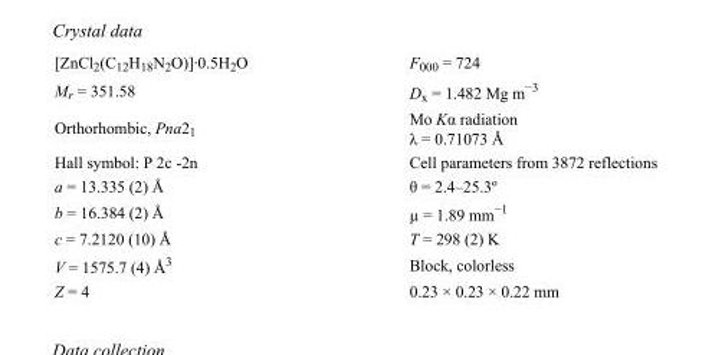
<table><tbody><tr><td>[ZnCl<sub>2</sub>(C<sub>12</sub>H<sub>18</sub>N<sub>2</sub>O)]·0.5H<sub>2</sub>O</td><td>F000 = 724</td></tr><tr><td>M<sub>r</sub> = 351.58</td><td>D<sub>x</sub> = 1.482 Mg m<sup>−3</sup></td></tr><tr><td>Orthorhombic, Pna2<sub>1</sub></td><td>Mo Kα radiation λ = 0.71073 Å</td></tr><tr><td>Hall symbol: P 2c -2n</td><td>Cell parameters from 3872 reflections</td></tr><tr><td>a = 13.335 (2) Å</td><td>θ = 2.4–25.3º</td></tr><tr><td>b = 16.384 (2) Å</td><td>µ = 1.89 mm<sup>−1</sup></td></tr><tr><td>c = 7.2120 (10) Å</td><td>T = 298 (2) K</td></tr><tr><td>V = 1575.7 (4) Å<sup>3</sup></td><td>Block, colorless</td></tr><tr><td>Z = 4</td><td>0.23 × 0.23 × 0.22 mm</td></tr></tbody></table>